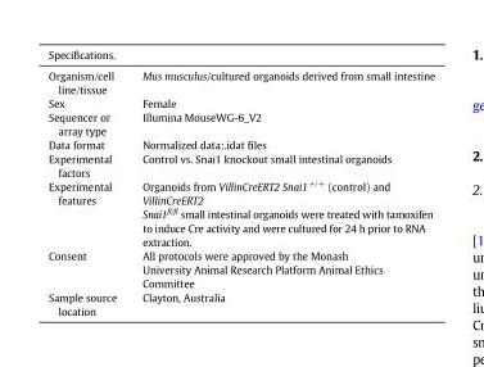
<table><thead><tr><td colspan="2">Specifications.</td></tr><tr><td>Organism/cell line/tissue</td><td>Mus musculus/cultured organoids derived from small intestine</td></tr></thead><tbody><tr><td>Sex</td><td>Female</td></tr><tr><td>Sequencer or array type</td><td>Illumina MouseWG-6_V2</td></tr><tr><td>Data format</td><td>Normalized data:.idat files</td></tr><tr><td>Experimental factors</td><td>Control vs. Snai1 knockout small intestinal organoids</td></tr><tr><td>Experimental features</td><td>Organoids from VillinCreERT2 Snai1<sup>+/+</sup> (control) and VillinCreERT2 Snai1<sup>fl/fl</sup> small intestinal organoids were treated with tamoxifen to induce Cre activity and were cultured for 24 h prior to RNA extraction.</td></tr><tr><td>Consent</td><td>All protocols were approved by the Monash University Animal Research Platform Animal Ethics Committee</td></tr><tr><td>Sample source location</td><td>Clayton, Australia</td></tr></tbody></table>